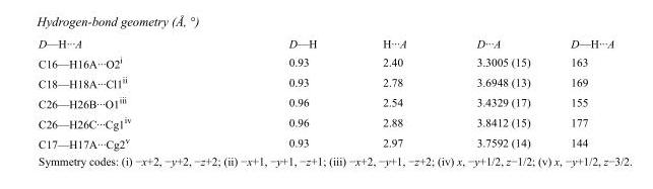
<table><tbody><tr><td>D—H···A</td><td>D—H</td><td>H···A</td><td>D···A</td><td>D—H···A</td></tr><tr><td>C16—H16A···O2<sup>i</sup></td><td>0.93</td><td>2.40</td><td>3.3005 (15)</td><td>163</td></tr><tr><td>C18—H18A···Cl1<sup>ii</sup></td><td>0.93</td><td>2.78</td><td>3.6948 (13)</td><td>169</td></tr><tr><td>C26—H26B···O1<sup>iii</sup></td><td>0.96</td><td>2.54</td><td>3.4329 (17)</td><td>155</td></tr><tr><td>C26—H26C···Cg1<sup>iv</sup></td><td>0.96</td><td>2.88</td><td>3.8412 (15)</td><td>177</td></tr><tr><td>C17—H17A···Cg2<sup>v</sup></td><td>0.93</td><td>2.97</td><td>3.7592 (14)</td><td>144</td></tr></tbody></table>